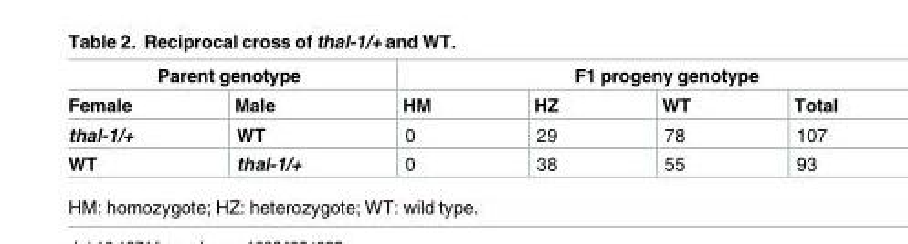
<table><thead><tr><td colspan="2">Parent genotype</td><td colspan="4">F1 progeny genotype</td></tr><tr><td>Female</td><td>Male</td><td>HM</td><td>HZ</td><td>WT</td><td>Total</td></tr></thead><tbody><tr><td>thal-1/+</td><td>WT</td><td>0</td><td>29</td><td>78</td><td>107</td></tr><tr><td>WT</td><td>thal-1/+</td><td>0</td><td>38</td><td>55</td><td>93</td></tr></tbody></table>